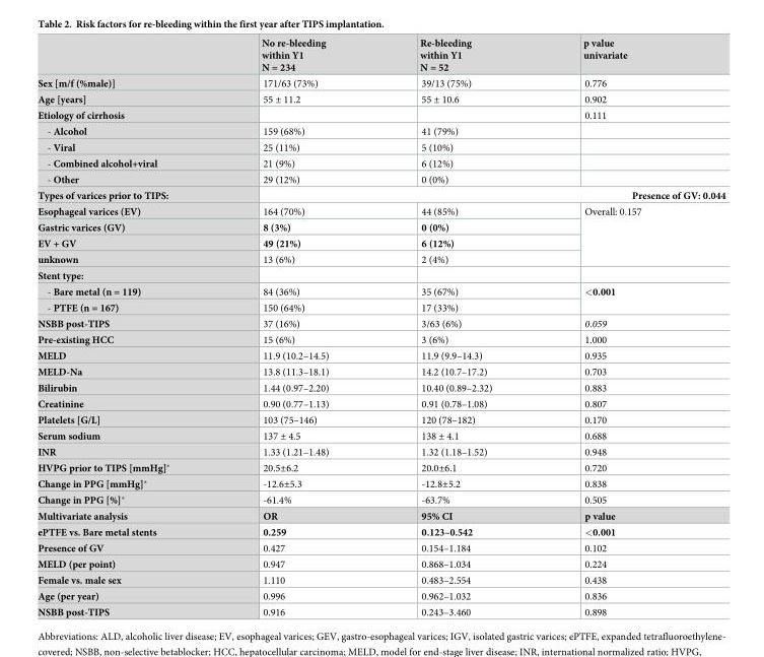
<table><thead><tr><td></td><td>No re-bleeding within Y1 N = 234</td><td>Re-bleeding within Y1 N = 52</td><td>p value univariate</td></tr></thead><tbody><tr><td>Sex [m/f (%male)]</td><td>171/63 (73%)</td><td>39/13 (75%)</td><td>0.776</td></tr><tr><td>Age [years]</td><td>55 ± 11.2</td><td>55 ± 10.6</td><td>0.902</td></tr><tr><td>Etiology of cirrhosis</td><td></td><td></td><td>0.111</td></tr><tr><td>- Alcohol</td><td>159 (68%)</td><td>41 (79%)</td><td></td></tr><tr><td>- Viral</td><td>25 (11%)</td><td>5 (10%)</td><td></td></tr><tr><td>- Combined alcohol+viral</td><td>21 (9%)</td><td>6 (12%)</td><td></td></tr><tr><td>- Other</td><td>29 (12%)</td><td>0 (0%)</td><td></td></tr><tr><td>Types of varices prior to TIPS:</td><td colspan="3">Presence of GV: 0.044</td></tr><tr><td>Esophageal varices (EV)</td><td>164 (70%)</td><td>44 (85%)</td><td rowspan="4">Overall: 0.157</td></tr><tr><td>Gastric varices (GV)</td><td>8 (3%)</td><td>0 (0%)</td></tr><tr><td>EV + GV</td><td>49 (21%)</td><td>6 (12%)</td></tr><tr><td>unknown</td><td>13 (6%)</td><td>2 (4%)</td></tr><tr><td colspan="4">Stent type:</td></tr><tr><td>- Bare metal (n = 119)</td><td>84 (36%)</td><td>35 (67%)</td><td rowspan="2">&lt;0.001</td></tr><tr><td>- PTFE (n = 167)</td><td>150 (64%)</td><td>17 (33%)</td></tr><tr><td>NSBB post-TIPS</td><td>37 (16%)</td><td>3/63 (6%)</td><td>0.059</td></tr><tr><td>Pre-existing HCC</td><td>15 (6%)</td><td>3 (6%)</td><td>1.000</td></tr><tr><td>MELD</td><td>11.9 (10.2–14.5)</td><td>11.9 (9.9–14.3)</td><td>0.935</td></tr><tr><td>MELD-Na</td><td>13.8 (11.3–18.1)</td><td>14.2 (10.7–17.2)</td><td>0.703</td></tr><tr><td>Bilirubin</td><td>1.44 (0.97–2.20)</td><td>10.40 (0.89–2.32)</td><td>0.883</td></tr><tr><td>Creatinine</td><td>0.90 (0.77–1.13)</td><td>0.91 (0.78–1.08)</td><td>0.807</td></tr><tr><td>Platelets [G/L]</td><td>103 (75–146)</td><td>120 (78–182)</td><td>0.170</td></tr><tr><td>Serum sodium</td><td>137 ± 4.5</td><td>138 ± 4.1</td><td>0.688</td></tr><tr><td>INR</td><td>1.33 (1.21–1.48)</td><td>1.32 (1.18–1.52)</td><td>0.948</td></tr><tr><td>HVPG prior to TIPS [mmHg]*</td><td>20.5±6.2</td><td>20.0±6.1</td><td>0.720</td></tr><tr><td>Change in PPG [mmHg]*</td><td>-12.6±5.3</td><td>-12.8±5.2</td><td>0.838</td></tr><tr><td>Change in PPG [%]*</td><td>-61.4%</td><td>-63.7%</td><td>0.505</td></tr><tr><td>Multivariate analysis</td><td>OR</td><td>95% CI</td><td>p value</td></tr><tr><td>ePTFE vs. Bare metal stents</td><td>0.259</td><td>0.123–0.542</td><td>&lt;0.001</td></tr><tr><td>Presence of GV</td><td>0.427</td><td>0.154–1.184</td><td>0.102</td></tr><tr><td>MELD (per point)</td><td>0.947</td><td>0.868–1.034</td><td>0.224</td></tr><tr><td>Female vs. male sex</td><td>1.110</td><td>0.483–2.554</td><td>0.438</td></tr><tr><td>Age (per year)</td><td>0.996</td><td>0.962–1.032</td><td>0.836</td></tr><tr><td>NSBB post-TIPS</td><td>0.916</td><td>0.243–3.460</td><td>0.898</td></tr></tbody></table>